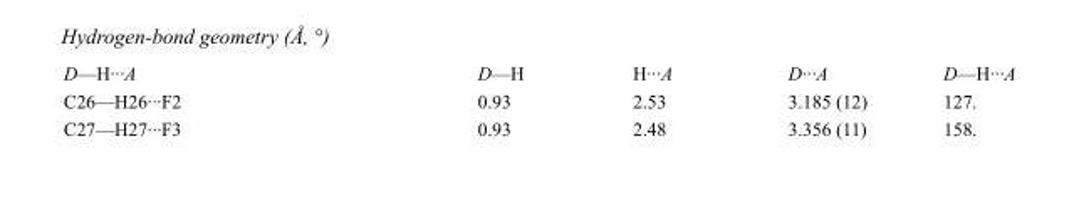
<table><tbody><tr><td>D—H···A</td><td>D—H</td><td>H···A</td><td>D···A</td><td>D—H···A</td></tr><tr><td>C26—H26···F2</td><td>0.93</td><td>2.53</td><td>3.185 (12)</td><td>127.</td></tr><tr><td>C27—H27···F3</td><td>0.93</td><td>2.48</td><td>3.356 (11)</td><td>158.</td></tr></tbody></table>